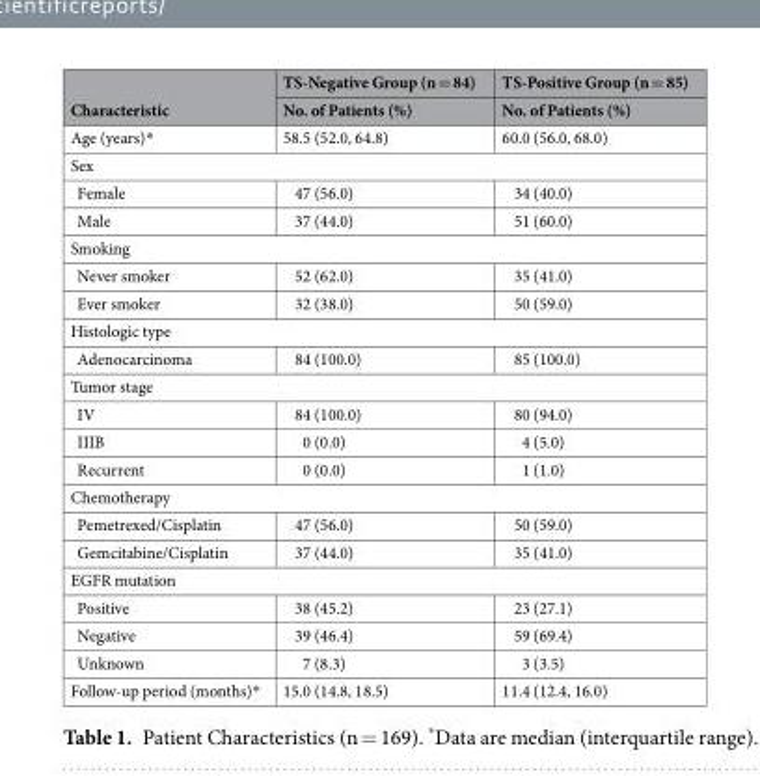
<table><thead><tr><td rowspan="2">Characteristic</td><td rowspan="2">TS-Negative Group (n = 84) No. of Patients (%)</td><td rowspan="2">TS-Positive Group (n = 85) No. of Patients (%)</td></tr><tr></tr></thead><tbody><tr><td>Age (years)*</td><td>58.5 (52.0, 64.8)</td><td>60.0 (56.0, 68.0)</td></tr><tr><td colspan="3">Sex</td></tr><tr><td>Female</td><td>47 (56.0)</td><td>34 (40.0)</td></tr><tr><td>Male</td><td>37 (44.0)</td><td>51 (60.0)</td></tr><tr><td colspan="3">Smoking</td></tr><tr><td>Never smoker</td><td>52 (62.0)</td><td>35 (41.0)</td></tr><tr><td>Ever smoker</td><td>32 (38.0)</td><td>50 (59.0)</td></tr><tr><td colspan="3">Histologic type</td></tr><tr><td>Adenocarcinoma</td><td>84 (100.0)</td><td>85 (100.0)</td></tr><tr><td colspan="3">Tumor stage</td></tr><tr><td>IV</td><td>84 (100.0)</td><td>80 (94.0)</td></tr><tr><td>IIIB</td><td>0 (0.0)</td><td>4 (5.0)</td></tr><tr><td>Recurrent</td><td>0 (0.0)</td><td>1 (1.0)</td></tr><tr><td colspan="3">Chemotherapy</td></tr><tr><td>Pemetrexed/Cisplatin</td><td>47 (56.0)</td><td>50 (59.0)</td></tr><tr><td>Gemcitabine/Cisplatin</td><td>37 (44.0)</td><td>35 (41.0)</td></tr><tr><td colspan="3">EGFR mutation</td></tr><tr><td>Positive</td><td>38 (45.2)</td><td>23 (27.1)</td></tr><tr><td>Negative</td><td>39 (46.4)</td><td>59 (69.4)</td></tr><tr><td>Unknown</td><td>7 (8.3)</td><td>3 (3.5)</td></tr><tr><td>Follow-up period (months)*</td><td>15.0 (14.8, 18.5)</td><td>11.4 (12.4, 16.0)</td></tr></tbody></table>